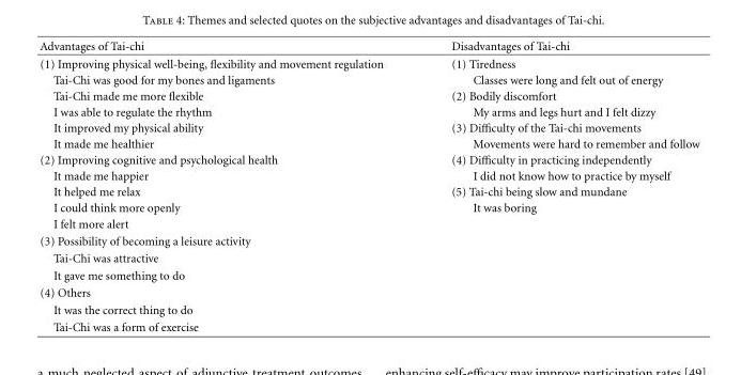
<table><thead><tr><td>Advantages of Tai-chi</td><td>Disadvantages of Tai-chi</td></tr></thead><tbody><tr><td>(1) Improving physical well-being, flexibility and movement regulation</td><td>(1) Tiredness</td></tr><tr><td>Tai-Chi was good for my bones and ligaments</td><td>Classes were long and felt out of energy</td></tr><tr><td>Tai-Chi made me more flexible</td><td>(2) Bodily discomfort</td></tr><tr><td>I was able to regulate the rhythm</td><td>My arms and legs hurt and I felt dizzy</td></tr><tr><td>It improved my physical ability</td><td>(3) Difficulty of the Tai-chi movements</td></tr><tr><td>It made me healthier</td><td>Movements were hard to remember and follow</td></tr><tr><td>(2) Improving cognitive and psychological health</td><td>(4) Difficulty in practicing independently</td></tr><tr><td>It made me happier</td><td>I did not know how to practice by myself</td></tr><tr><td>It helped me relax</td><td>(5) Tai-chi being slow and mundane</td></tr><tr><td>I could think more openly</td><td>It was boring</td></tr><tr><td colspan="2">I felt more alert</td></tr><tr><td colspan="2">(3) Possibility of becoming a leisure activity</td></tr><tr><td colspan="2">Tai-Chi was attractive</td></tr><tr><td colspan="2">It gave me something to do</td></tr><tr><td colspan="2">(4) Others</td></tr><tr><td colspan="2">It was the correct thing to do</td></tr><tr><td>Tai-Chi was a form of exercise</td><td></td></tr></tbody></table>